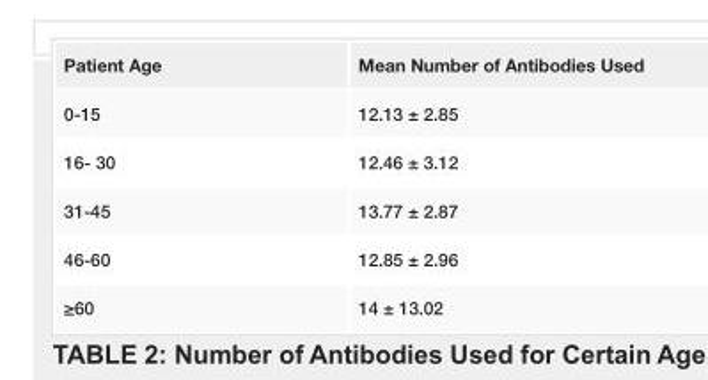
<table><tbody><tr><td>Patient Age</td><td>Mean Number of Antibodies Used</td></tr><tr><td>0-15</td><td>12.13 ± 2.85</td></tr><tr><td>16- 30</td><td>12.46 ± 3.12</td></tr><tr><td>31-45</td><td>13.77 ± 2.87</td></tr><tr><td>46-60</td><td>12.85 ± 2.96</td></tr><tr><td>≥60</td><td>14 ± 13.02</td></tr></tbody></table>